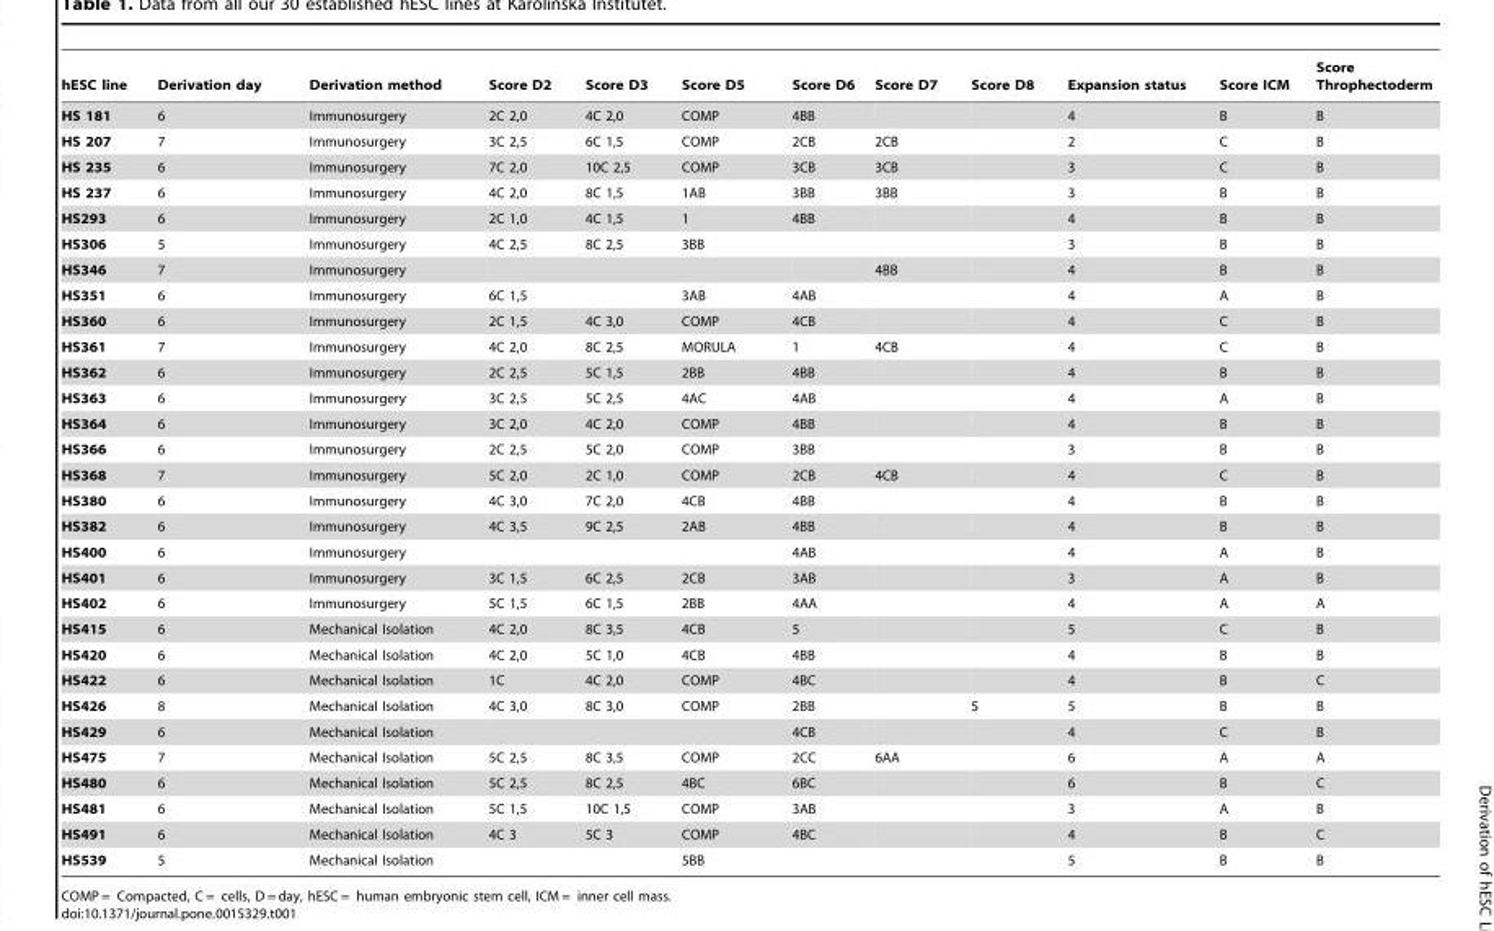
<table><thead><tr><td>hESC line</td><td>Derivation day</td><td>Derivation method</td><td>Score D2</td><td>Score D3</td><td>Score D5</td><td>Score D6</td><td>Score D7</td><td>Score D8</td><td>Expansion status</td><td>Score ICM</td><td>Score Throphectoderm</td></tr></thead><tbody><tr><td>HS 181</td><td>6</td><td>Immunosurgery</td><td>2C 2,0</td><td>4C 2,0</td><td>COMP</td><td>4BB</td><td></td><td></td><td>4</td><td>B</td><td>B</td></tr><tr><td>HS 207</td><td>7</td><td>Immunosurgery</td><td>3C 2,5</td><td>6C 1,5</td><td>COMP</td><td>2CB</td><td>2CB</td><td></td><td>2</td><td>C</td><td>B</td></tr><tr><td>HS 235</td><td>6</td><td>Immunosurgery</td><td>7C 2,0</td><td>10C 2,5</td><td>COMP</td><td>3CB</td><td>3CB</td><td></td><td>3</td><td>C</td><td>B</td></tr><tr><td>HS 237</td><td>6</td><td>Immunosurgery</td><td>4C 2,0</td><td>8C 1,5</td><td>1AB</td><td>3BB</td><td>3BB</td><td></td><td>3</td><td>B</td><td>B</td></tr><tr><td>HS293</td><td>6</td><td>Immunosurgery</td><td>2C 1,0</td><td>4C 1,5</td><td>1</td><td>4BB</td><td></td><td></td><td>4</td><td>B</td><td>B</td></tr><tr><td>HS306</td><td>5</td><td>Immunosurgery</td><td>4C 2,5</td><td>8C 2,5</td><td>3BB</td><td></td><td></td><td></td><td>3</td><td>B</td><td>B</td></tr><tr><td>HS346</td><td>7</td><td>Immunosurgery</td><td></td><td></td><td></td><td></td><td>4BB</td><td></td><td>4</td><td>B</td><td>B</td></tr><tr><td>HS351</td><td>6</td><td>Immunosurgery</td><td>6C 1,5</td><td></td><td>3AB</td><td>4AB</td><td></td><td></td><td>4</td><td>A</td><td>B</td></tr><tr><td>HS360</td><td>6</td><td>Immunosurgery</td><td>2C 1,5</td><td>4C 3,0</td><td>COMP</td><td>4CB</td><td></td><td></td><td>4</td><td>C</td><td>B</td></tr><tr><td>HS361</td><td>7</td><td>Immunosurgery</td><td>4C 2,0</td><td>8C 2,5</td><td>MORULA</td><td>1</td><td>4CB</td><td></td><td>4</td><td>C</td><td>B</td></tr><tr><td>HS362</td><td>6</td><td>Immunosurgery</td><td>2C 2,5</td><td>5C 1,5</td><td>2BB</td><td>4BB</td><td></td><td></td><td>4</td><td>B</td><td>B</td></tr><tr><td>HS363</td><td>6</td><td>Immunosurgery</td><td>3C 2,5</td><td>5C 2,5</td><td>4AC</td><td>4AB</td><td></td><td></td><td>4</td><td>A</td><td>B</td></tr><tr><td>HS364</td><td>6</td><td>Immunosurgery</td><td>3C 2,0</td><td>4C 2,0</td><td>COMP</td><td>4BB</td><td></td><td></td><td>4</td><td>B</td><td>B</td></tr><tr><td>HS366</td><td>6</td><td>Immunosurgery</td><td>2C 2,5</td><td>5C 2,0</td><td>COMP</td><td>3BB</td><td></td><td></td><td>3</td><td>B</td><td>B</td></tr><tr><td>HS368</td><td>7</td><td>Immunosurgery</td><td>5C 2,0</td><td>2C 1,0</td><td>COMP</td><td>2CB</td><td>4CB</td><td></td><td>4</td><td>C</td><td>B</td></tr><tr><td>HS380</td><td>6</td><td>Immunosurgery</td><td>4C 3,0</td><td>7C 2,0</td><td>4CB</td><td>4BB</td><td></td><td></td><td>4</td><td>B</td><td>B</td></tr><tr><td>HS382</td><td>6</td><td>Immunosurgery</td><td>4C 3,5</td><td>9C 2,5</td><td>2AB</td><td>4BB</td><td></td><td></td><td>4</td><td>B</td><td>B</td></tr><tr><td>HS400</td><td>6</td><td>Immunosurgery</td><td></td><td></td><td></td><td>4AB</td><td></td><td></td><td>4</td><td>A</td><td>B</td></tr><tr><td>HS401</td><td>6</td><td>Immunosurgery</td><td>3C 1,5</td><td>6C 2,5</td><td>2CB</td><td>3AB</td><td></td><td></td><td>3</td><td>A</td><td>B</td></tr><tr><td>HS402</td><td>6</td><td>Immunosurgery</td><td>5C 1,5</td><td>6C 1,5</td><td>2BB</td><td>4AA</td><td></td><td></td><td>4</td><td>A</td><td>A</td></tr><tr><td>HS415</td><td>6</td><td>Mechanical Isolation</td><td>4C 2,0</td><td>8C 3,5</td><td>4CB</td><td>5</td><td></td><td></td><td>5</td><td>C</td><td>B</td></tr><tr><td>HS420</td><td>6</td><td>Mechanical Isolation</td><td>4C 2,0</td><td>5C 1,0</td><td>4CB</td><td>4BB</td><td></td><td></td><td>4</td><td>B</td><td>B</td></tr><tr><td>HS422</td><td>6</td><td>Mechanical Isolation</td><td>1C</td><td>4C 2,0</td><td>COMP</td><td>4BC</td><td></td><td></td><td>4</td><td>B</td><td>C</td></tr><tr><td>HS426</td><td>8</td><td>Mechanical Isolation</td><td>4C 3,0</td><td>8C 3,0</td><td>COMP</td><td>2BB</td><td></td><td>5</td><td>5</td><td>B</td><td>B</td></tr><tr><td>HS429</td><td>6</td><td>Mechanical Isolation</td><td></td><td></td><td></td><td>4CB</td><td></td><td></td><td>4</td><td>C</td><td>B</td></tr><tr><td>HS475</td><td>7</td><td>Mechanical Isolation</td><td>5C 2,5</td><td>8C 3,5</td><td>COMP</td><td>2CC</td><td>6AA</td><td></td><td>6</td><td>A</td><td>A</td></tr><tr><td>HS480</td><td>6</td><td>Mechanical Isolation</td><td>5C 2,5</td><td>8C 2,5</td><td>4BC</td><td>6BC</td><td></td><td></td><td>6</td><td>B</td><td>C</td></tr><tr><td>HS481</td><td>6</td><td>Mechanical Isolation</td><td>5C 1,5</td><td>10C 1,5</td><td>COMP</td><td>3AB</td><td></td><td></td><td>3</td><td>A</td><td>B</td></tr><tr><td>HS491</td><td>6</td><td>Mechanical Isolation</td><td>4C 3</td><td>5C 3</td><td>COMP</td><td>4BC</td><td></td><td></td><td>4</td><td>B</td><td>C</td></tr><tr><td>HS539</td><td>5</td><td>Mechanical Isolation</td><td></td><td></td><td>5BB</td><td></td><td></td><td></td><td>5</td><td>B</td><td>B</td></tr></tbody></table>